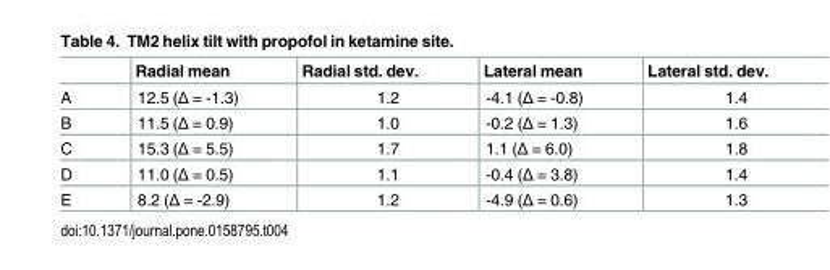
<table><thead><tr><td></td><td>Radial mean</td><td>Radial std. dev.</td><td>Lateral mean</td><td>Lateral std. dev.</td></tr></thead><tbody><tr><td>A</td><td>12.5 (Δ = -1.3)</td><td>1.2</td><td>-4.1 (Δ = -0.8)</td><td>1.4</td></tr><tr><td>B</td><td>11.5 (Δ = 0.9)</td><td>1.0</td><td>-0.2 (Δ = 1.3)</td><td>1.6</td></tr><tr><td>C</td><td>15.3 (Δ = 5.5)</td><td>1.7</td><td>1.1 (Δ = 6.0)</td><td>1.8</td></tr><tr><td>D</td><td>11.0 (Δ = 0.5)</td><td>1.1</td><td>-0.4 (Δ = 3.8)</td><td>1.4</td></tr><tr><td>E</td><td>8.2 (Δ = -2.9)</td><td>1.2</td><td>-4.9 (Δ = 0.6)</td><td>1.3</td></tr></tbody></table>